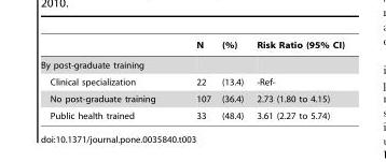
<table><thead><tr><td></td><td>N</td><td>(%)</td><td>Risk Ratio (95% CI)</td></tr></thead><tbody><tr><td colspan="4">By post-graduate training</td></tr><tr><td>Clinical specialization</td><td>22</td><td>(13.4)</td><td>-Ref-</td></tr><tr><td>No post-graduate training</td><td>107</td><td>(36.4)</td><td>2.73 (1.80 to 4.15)</td></tr><tr><td>Public health trained</td><td>33</td><td>(48.4)</td><td>3.61 (2.27 to 5.74)</td></tr></tbody></table>